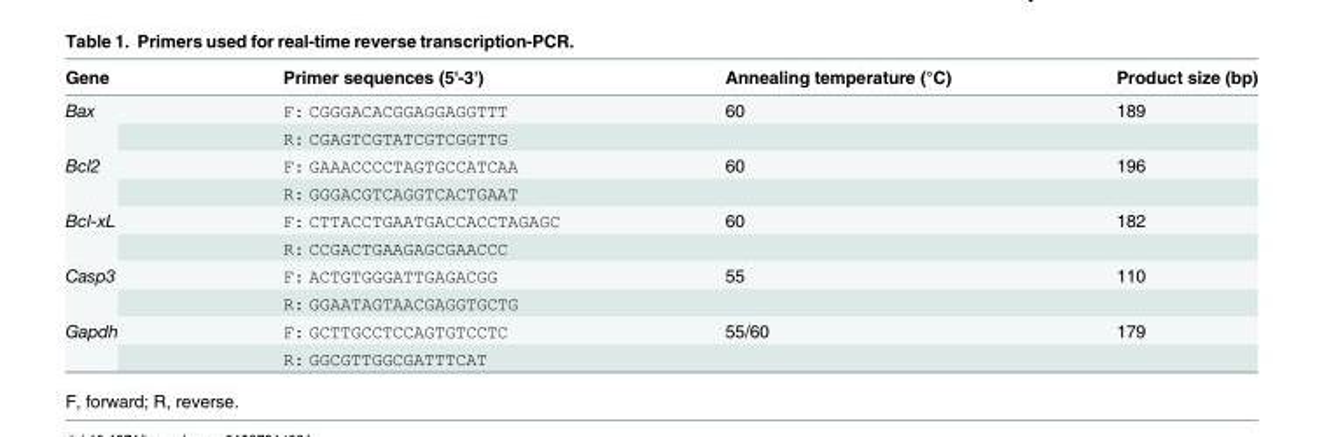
<table><thead><tr><td>Gene</td><td>Primer sequences (5&#x27;-3&#x27;)</td><td>Annealing temperature (°C)</td><td>Product size (bp)</td></tr></thead><tbody><tr><td rowspan="2">Bax</td><td>F: CGGGACACGGAGGAGGTTT</td><td>60</td><td>189</td></tr><tr><td>R: CGAGTCGTATCGTCGGTTG</td><td></td><td></td></tr><tr><td rowspan="2">Bcl2</td><td>F: GAAACCCCTAGTGCCATCAA</td><td>60</td><td>196</td></tr><tr><td>R: GGGACGTCAGGTCACTGAAT</td><td></td><td></td></tr><tr><td rowspan="2">Bcl-xL</td><td>F: CTTACCTGAATGACCACCTAGAGC</td><td>60</td><td>182</td></tr><tr><td>R: CCGACTGAAGAGCGAACCC</td><td></td><td></td></tr><tr><td rowspan="2">Casp3</td><td>F: ACTGTGGGATTGAGACGG</td><td>55</td><td>110</td></tr><tr><td>R: GGAATAGTAACGAGGTGCTG</td><td></td><td></td></tr><tr><td rowspan="2">Gapdh</td><td>F: GCTTGCCTCCAGTGTCCTC</td><td>55/60</td><td>179</td></tr><tr><td>R: GGCGTTGGCGATTTCAT</td><td></td><td></td></tr></tbody></table>